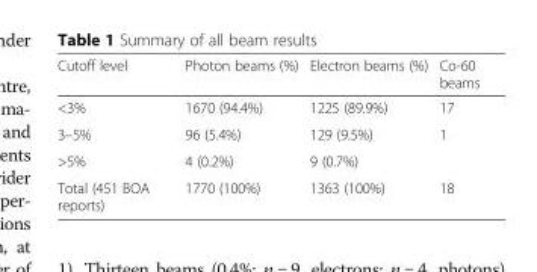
<table><thead><tr><td>Cutoff level</td><td>Photon beams (%)</td><td>Electron beams (%)</td><td>Co-60 beams</td></tr></thead><tbody><tr><td>&lt;3%</td><td>1670 (94.4%)</td><td>1225 (89.9%)</td><td>17</td></tr><tr><td>3–5%</td><td>96 (5.4%)</td><td>129 (9.5%)</td><td>1</td></tr><tr><td>&gt;5%</td><td>4 (0.2%)</td><td>9 (0.7%)</td><td></td></tr><tr><td>Total (451 BOA reports)</td><td>1770 (100%)</td><td>1363 (100%)</td><td>18</td></tr></tbody></table>